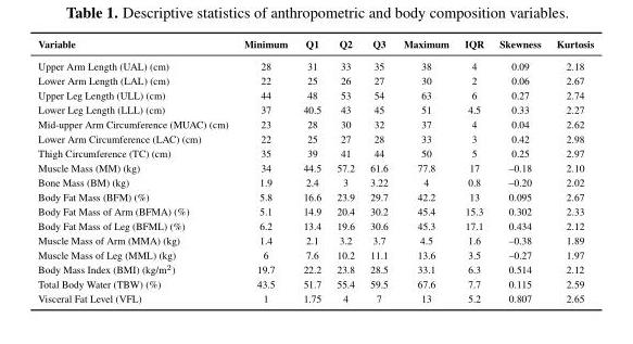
<table><thead><tr><td>Variable</td><td>Minimum</td><td>Q1</td><td>Q2</td><td>Q3</td><td>Maximum</td><td>IQR</td><td>Skewness</td><td>Kurtosis</td></tr></thead><tbody><tr><td>Upper Arm Length (UAL) (cm)</td><td>28</td><td>31</td><td>33</td><td>35</td><td>38</td><td>4</td><td>0.09</td><td>2.18</td></tr><tr><td>Lower Arm Length (LAL) (cm)</td><td>22</td><td>25</td><td>26</td><td>27</td><td>30</td><td>2</td><td>0.06</td><td>2.67</td></tr><tr><td>Upper Leg Length (ULL) (cm)</td><td>44</td><td>48</td><td>53</td><td>54</td><td>63</td><td>6</td><td>0.27</td><td>2.74</td></tr><tr><td>Lower Leg Length (LLL) (cm)</td><td>37</td><td>40.5</td><td>43</td><td>45</td><td>51</td><td>4.5</td><td>0.33</td><td>2.27</td></tr><tr><td>Mid-upper Arm Circumference (MUAC) (cm)</td><td>23</td><td>28</td><td>30</td><td>32</td><td>37</td><td>4</td><td>0.04</td><td>2.62</td></tr><tr><td>Lower Arm Circumference (LAC) (cm)</td><td>22</td><td>25</td><td>27</td><td>28</td><td>33</td><td>3</td><td>0.42</td><td>2.98</td></tr><tr><td>Thigh Circumference (TC) (cm)</td><td>35</td><td>39</td><td>41</td><td>44</td><td>50</td><td>5</td><td>0.25</td><td>2.97</td></tr><tr><td>Muscle Mass (MM) (kg)</td><td>34</td><td>44.5</td><td>57.2</td><td>61.6</td><td>77.8</td><td>17</td><td>–0.18</td><td>2.10</td></tr><tr><td>Bone Mass (BM) (kg)</td><td>1.9</td><td>2.4</td><td>3</td><td>3.22</td><td>4</td><td>0.8</td><td>–0.20</td><td>2.02</td></tr><tr><td>Body Fat Mass (BFM) (%)</td><td>5.8</td><td>16.6</td><td>23.9</td><td>29.7</td><td>42.2</td><td>13</td><td>0.095</td><td>2.67</td></tr><tr><td>Body Fat Mass of Arm (BFMA) (%)</td><td>5.1</td><td>14.9</td><td>20.4</td><td>30.2</td><td>45.4</td><td>15.3</td><td>0.302</td><td>2.33</td></tr><tr><td>Body Fat Mass of Leg (BFML) (%)</td><td>6.2</td><td>13.4</td><td>19.6</td><td>30.6</td><td>45.3</td><td>17.1</td><td>0.434</td><td>2.12</td></tr><tr><td>Muscle Mass of Arm (MMA) (kg)</td><td>1.4</td><td>2.1</td><td>3.2</td><td>3.7</td><td>4.5</td><td>1.6</td><td>–0.38</td><td>1.89</td></tr><tr><td>Muscle Mass of Leg (MML) (kg)</td><td>6</td><td>7.6</td><td>10.2</td><td>11.1</td><td>13.6</td><td>3.5</td><td>–0.27</td><td>1.97</td></tr><tr><td>Body Mass Index (BMI) (kg/m<sup>2</sup>)</td><td>19.7</td><td>22.2</td><td>23.8</td><td>28.5</td><td>33.1</td><td>6.3</td><td>0.514</td><td>2.12</td></tr><tr><td>Total Body Water (TBW) (%)</td><td>43.5</td><td>51.7</td><td>55.4</td><td>59.5</td><td>67.6</td><td>7.7</td><td>0.115</td><td>2.59</td></tr><tr><td>Visceral Fat Level (VFL)</td><td>1</td><td>1.75</td><td>4</td><td>7</td><td>13</td><td>5.2</td><td>0.807</td><td>2.65</td></tr></tbody></table>